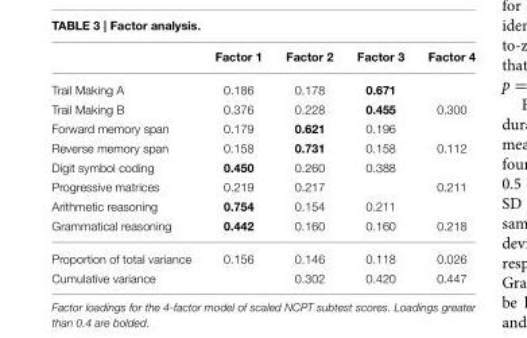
<table><thead><tr><td></td><td>Factor 1</td><td>Factor 2</td><td>Factor 3</td><td>Factor 4</td></tr></thead><tbody><tr><td>Trail Making A</td><td>0.186</td><td>0.178</td><td>0.671</td><td></td></tr><tr><td>Trail Making B</td><td>0.376</td><td>0.228</td><td>0.455</td><td>0.300</td></tr><tr><td>Forward memory span</td><td>0.179</td><td>0.621</td><td>0.196</td><td></td></tr><tr><td>Reverse memory span</td><td>0.158</td><td>0.731</td><td>0.158</td><td>0.112</td></tr><tr><td>Digit symbol coding</td><td>0.450</td><td>0.260</td><td>0.388</td><td></td></tr><tr><td>Progressive matrices</td><td>0.219</td><td>0.217</td><td></td><td>0.211</td></tr><tr><td>Arithmetic reasoning</td><td>0.754</td><td>0.154</td><td>0.211</td><td></td></tr><tr><td>Grammatical reasoning</td><td>0.442</td><td>0.160</td><td>0.160</td><td>0.218</td></tr><tr><td>Proportion of total variance</td><td>0.156</td><td>0.146</td><td>0.118</td><td>0.026</td></tr><tr><td>Cumulative variance</td><td></td><td>0.302</td><td>0.420</td><td>0.447</td></tr></tbody></table>